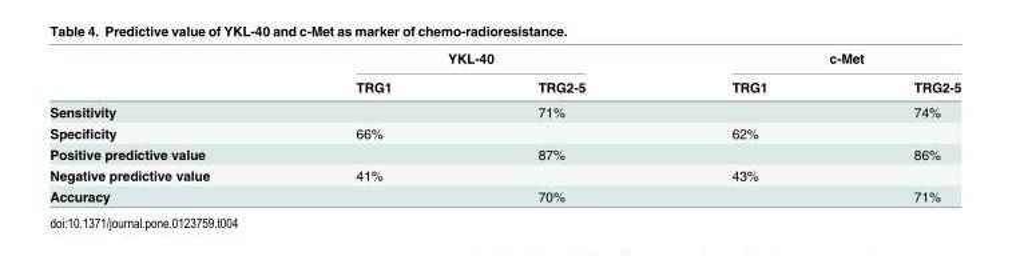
<table><thead><tr><td rowspan="2"></td><td colspan="2">YKL-40</td><td colspan="2">c-Met</td></tr><tr><td>TRG1</td><td>TRG2-5</td><td>TRG1</td><td>TRG2-5</td></tr></thead><tbody><tr><td>Sensitivity</td><td></td><td>71%</td><td></td><td>74%</td></tr><tr><td>Specificity</td><td>66%</td><td></td><td>62%</td><td></td></tr><tr><td>Positive predictive value</td><td></td><td>87%</td><td></td><td>86%</td></tr><tr><td>Negative predictive value</td><td>41%</td><td></td><td>43%</td><td></td></tr><tr><td>Accuracy</td><td></td><td>70%</td><td></td><td>71%</td></tr></tbody></table>